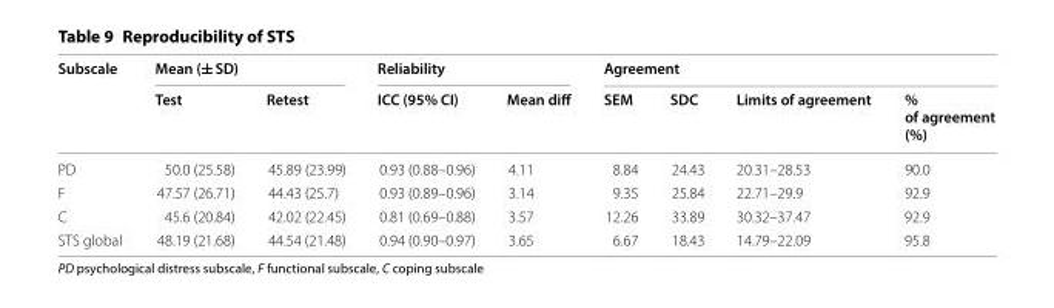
<table><thead><tr><td rowspan="2">Subscale</td><td colspan="2">Mean (± SD)</td><td colspan="2">Reliability</td><td colspan="4">Agreement</td></tr><tr><td>Test</td><td>Retest</td><td>ICC (95% CI)</td><td>Mean diff</td><td>SEM</td><td>SDC</td><td>Limits of agreement</td><td>% of agreement (%)</td></tr></thead><tbody><tr><td>PD</td><td>50.0 (25.58)</td><td>45.89 (23.99)</td><td>0.93 (0.88–0.96)</td><td>4.11</td><td>8.84</td><td>24.43</td><td>20.31–28.53</td><td>90.0</td></tr><tr><td>F</td><td>47.57 (26.71)</td><td>44.43 (25.7)</td><td>0.93 (0.89–0.96)</td><td>3.14</td><td>9.35</td><td>25.84</td><td>22.71–29.9</td><td>92.9</td></tr><tr><td>C</td><td>45.6 (20.84)</td><td>42.02 (22.45)</td><td>0.81 (0.69–0.88)</td><td>3.57</td><td>12.26</td><td>33.89</td><td>30.32–37.47</td><td>92.9</td></tr><tr><td>STS global</td><td>48.19 (21.68)</td><td>44.54 (21.48)</td><td>0.94 (0.90–0.97)</td><td>3.65</td><td>6.67</td><td>18.43</td><td>14.79–22.09</td><td>95.8</td></tr></tbody></table>